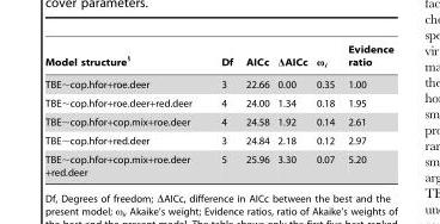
<table><thead><tr><td>Model structure§</td><td>Df</td><td>AICc</td><td>ΔAICc</td><td>ω<sub>i</sub></td><td>Evidence ratio</td></tr></thead><tbody><tr><td>TBE∼cop.hfor+roe.deer</td><td>3</td><td>22.66</td><td>0.00</td><td>0.35</td><td>1.00</td></tr><tr><td>TBE∼cop.hfor+roe.deer+red.deer</td><td>4</td><td>24.00</td><td>1.34</td><td>0.18</td><td>1.95</td></tr><tr><td>TBE∼cop.hfor+cop.mix+roe.deer</td><td>4</td><td>24.58</td><td>1.92</td><td>0.14</td><td>2.61</td></tr><tr><td>TBE∼cop.hfor+red.deer</td><td>3</td><td>24.84</td><td>2.18</td><td>0.12</td><td>2.97</td></tr><tr><td>TBE∼cop.hfor+cop.mix+roe.deer +red.deer</td><td>5</td><td>25.96</td><td>3.30</td><td>0.07</td><td>5.20</td></tr></tbody></table>